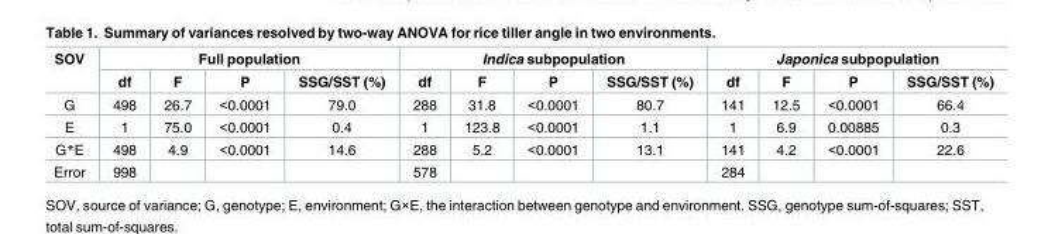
<table><thead><tr><td rowspan="2">SOV</td><td colspan="4">Full population</td><td colspan="4">Indica subpopulation</td><td colspan="4">Japonica subpopulation</td></tr><tr><td>df</td><td>F</td><td>P</td><td>SSG/SST (%)</td><td>df</td><td>F</td><td>P</td><td>SSG/SST (%)</td><td>df</td><td>F</td><td>P</td><td>SSG/SST (%)</td></tr></thead><tbody><tr><td>G</td><td>498</td><td>26.7</td><td>&lt;0.0001</td><td>79.0</td><td>288</td><td>31.8</td><td>&lt;0.0001</td><td>80.7</td><td>141</td><td>12.5</td><td>&lt;0.0001</td><td>66.4</td></tr><tr><td>E</td><td>1</td><td>75.0</td><td>&lt;0.0001</td><td>0.4</td><td>1</td><td>123.8</td><td>&lt;0.0001</td><td>1.1</td><td>1</td><td>6.9</td><td>0.00885</td><td>0.3</td></tr><tr><td>G*E</td><td>498</td><td>4.9</td><td>&lt;0.0001</td><td>14.6</td><td>288</td><td>5.2</td><td>&lt;0.0001</td><td>13.1</td><td>141</td><td>4.2</td><td>&lt;0.0001</td><td>22.6</td></tr><tr><td>Error</td><td>998</td><td></td><td></td><td></td><td>578</td><td></td><td></td><td></td><td>284</td><td></td><td></td><td></td></tr></tbody></table>